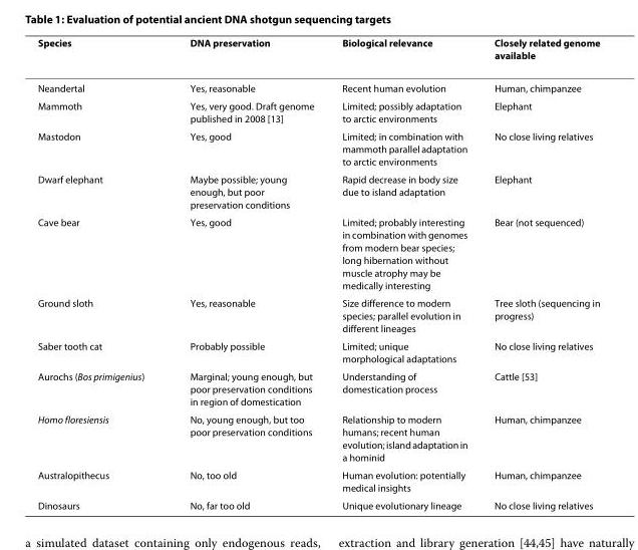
<table><thead><tr><td>Species</td><td>DNA preservation</td><td>Biological relevance</td><td>Closely related genome available</td></tr></thead><tbody><tr><td>Neandertal</td><td>Yes, reasonable</td><td>Recent human evolution</td><td>Human, chimpanzee</td></tr><tr><td>Mammoth</td><td>Yes, very good. Draft genome published in 2008 [13]</td><td>Limited; possibly adaptation to arctic environments</td><td>Elephant</td></tr><tr><td>Mastodon</td><td>Yes, good</td><td>Limited; in combination with mammoth parallel adaptation to arctic environments</td><td>No close living relatives</td></tr><tr><td>Dwarf elephant</td><td>Maybe possible; young enough, but poor preservation conditions</td><td>Rapid decrease in body size due to island adaptation</td><td>Elephant</td></tr><tr><td>Cave bear</td><td>Yes, good</td><td>Limited; probably interesting in combination with genomes from modern bear species; long hibernation without muscle atrophy may be medically interesting</td><td>Bear (not sequenced)</td></tr><tr><td>Ground sloth</td><td>Yes, reasonable</td><td>Size difference to modern species; parallel evolution in different lineages</td><td>Tree sloth (sequencing in progress)</td></tr><tr><td>Saber tooth cat</td><td>Probably possible</td><td>Limited; unique morphological adaptations</td><td>No close living relatives</td></tr><tr><td>Aurochs (Bos primigenius)</td><td>Marginal; young enough, but poor preservation conditions in region of domestication</td><td>Understanding of domestication process</td><td>Cattle [53]</td></tr><tr><td>Homo floresiensis</td><td>No, young enough, but too poor preservation conditions</td><td>Relationship to modern humans; recent human evolution; island adaptation in a hominid</td><td>Human, chimpanzee</td></tr><tr><td>Australopithecus</td><td>No, too old</td><td>Human evolution: potentially medical insights</td><td>Human, chimpanzee</td></tr><tr><td>Dinosaurs</td><td>No, far too old</td><td>Unique evolutionary lineage</td><td>No close living relatives</td></tr></tbody></table>